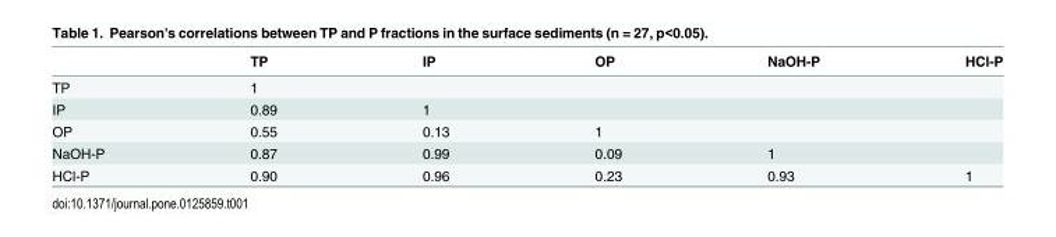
<table><thead><tr><td></td><td>TP</td><td>IP</td><td>OP</td><td>NaOH-P</td><td>HCl-P</td></tr></thead><tbody><tr><td>TP</td><td>1</td><td></td><td></td><td></td><td></td></tr><tr><td>IP</td><td>0.89</td><td>1</td><td></td><td></td><td></td></tr><tr><td>OP</td><td>0.55</td><td>0.13</td><td>1</td><td></td><td></td></tr><tr><td>NaOH-P</td><td>0.87</td><td>0.99</td><td>0.09</td><td>1</td><td></td></tr><tr><td>HCl-P</td><td>0.90</td><td>0.96</td><td>0.23</td><td>0.93</td><td>1</td></tr></tbody></table>